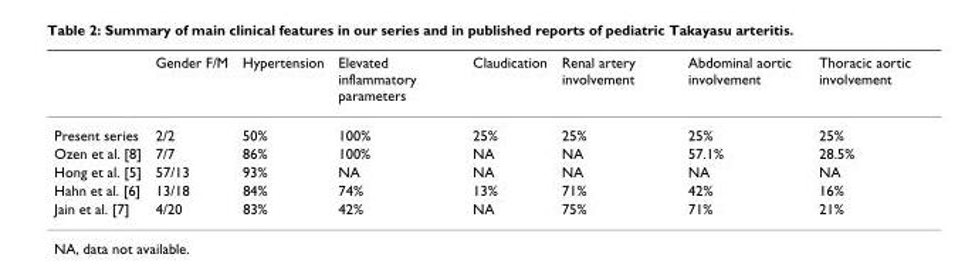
<table><thead><tr><td></td><td>Gender F/M</td><td>Hypertension</td><td>Elevated inflammatory parameters</td><td>Claudication</td><td>Renal artery involvement</td><td>Abdominal aortic involvement</td><td>Thoracic aortic involvement</td></tr></thead><tbody><tr><td>Present series</td><td>2/2</td><td>50%</td><td>100%</td><td>25%</td><td>25%</td><td>25%</td><td>25%</td></tr><tr><td>Ozen et al. [8]</td><td>7/7</td><td>86%</td><td>100%</td><td>NA</td><td>NA</td><td>57.1%</td><td>28.5%</td></tr><tr><td>Hong et al. [5]</td><td>57/13</td><td>93%</td><td>NA</td><td>NA</td><td>NA</td><td>NA</td><td>NA</td></tr><tr><td>Hahn et al. [6]</td><td>13/18</td><td>84%</td><td>74%</td><td>13%</td><td>71%</td><td>42%</td><td>16%</td></tr><tr><td>Jain et al. [7]</td><td>4/20</td><td>83%</td><td>42%</td><td>NA</td><td>75%</td><td>71%</td><td>21%</td></tr></tbody></table>